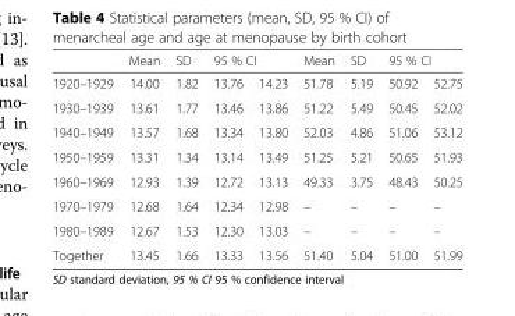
<table><thead><tr><td rowspan="2">1920–1929</td><td rowspan="2">Mean 14.00</td><td rowspan="2">SD 1.82</td><td colspan="2">95 % CI</td><td rowspan="2">Mean 51.78</td><td rowspan="2">SD 5.19</td><td colspan="2">95 % CI</td></tr><tr><td>13.76</td><td>14.23</td><td>50.92</td><td>52.75</td></tr></thead><tbody><tr><td>1930–1939</td><td>13.61</td><td>1.77</td><td>13.46</td><td>13.86</td><td>51.22</td><td>5.49</td><td>50.45</td><td>52.02</td></tr><tr><td>1940–1949</td><td>13.57</td><td>1.68</td><td>13.34</td><td>13.80</td><td>52.03</td><td>4.86</td><td>51.06</td><td>53.12</td></tr><tr><td>1950–1959</td><td>13.31</td><td>1.34</td><td>13.14</td><td>13.49</td><td>51.25</td><td>5.21</td><td>50.65</td><td>51.93</td></tr><tr><td>1960–1969</td><td>12.93</td><td>1.39</td><td>12.72</td><td>13.13</td><td>49.33</td><td>3.75</td><td>48.43</td><td>50.25</td></tr><tr><td>1970–1979</td><td>12.68</td><td>1.64</td><td>12.34</td><td>12.98</td><td>–</td><td>–</td><td>–</td><td>–</td></tr><tr><td>1980–1989</td><td>12.67</td><td>1.53</td><td>12.30</td><td>13.03</td><td>–</td><td>–</td><td>–</td><td>–</td></tr><tr><td>Together</td><td>13.45</td><td>1.66</td><td>13.33</td><td>13.56</td><td>51.40</td><td>5.04</td><td>51.00</td><td>51.99</td></tr></tbody></table>